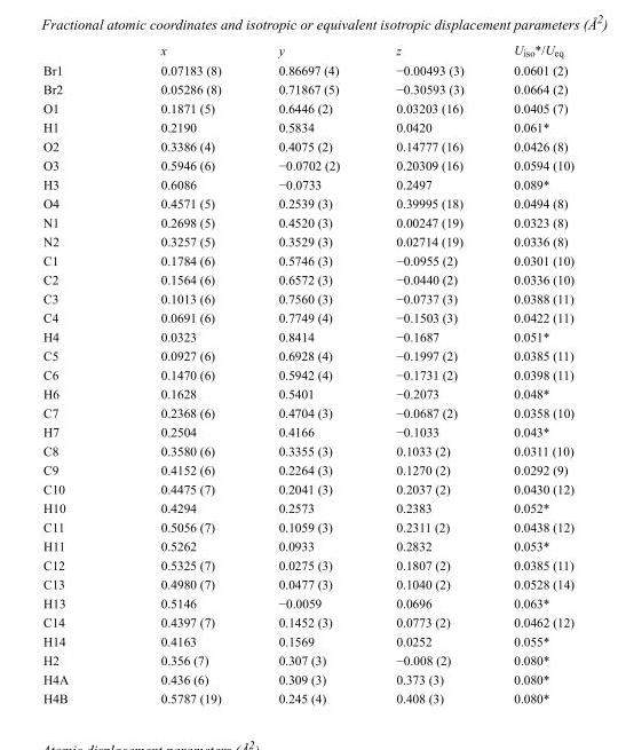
<table><thead><tr><td></td><td>x</td><td>y</td><td>z</td><td>U<sub>iso</sub>*/U<sub>eq</sub></td></tr></thead><tbody><tr><td>Br1</td><td>0.07183 (8)</td><td>0.86697 (4)</td><td>−0.00493 (3)</td><td>0.0601 (2)</td></tr><tr><td>Br2</td><td>0.05286 (8)</td><td>0.71867 (5)</td><td>−0.30593 (3)</td><td>0.0664 (2)</td></tr><tr><td>O1</td><td>0.1871 (5)</td><td>0.6446 (2)</td><td>0.03203 (16)</td><td>0.0405 (7)</td></tr><tr><td>H1</td><td>0.2190</td><td>0.5834</td><td>0.0420</td><td>0.061*</td></tr><tr><td>O2</td><td>0.3386 (4)</td><td>0.4075 (2)</td><td>0.14777 (16)</td><td>0.0426 (8)</td></tr><tr><td>O3</td><td>0.5946 (6)</td><td>−0.0702 (2)</td><td>0.20309 (16)</td><td>0.0594 (10)</td></tr><tr><td>H3</td><td>0.6086</td><td>−0.0733</td><td>0.2497</td><td>0.089*</td></tr><tr><td>O4</td><td>0.4571 (5)</td><td>0.2539 (3)</td><td>0.39995 (18)</td><td>0.0494 (8)</td></tr><tr><td>N1</td><td>0.2698 (5)</td><td>0.4520 (3)</td><td>0.00247 (19)</td><td>0.0323 (8)</td></tr><tr><td>N2</td><td>0.3257 (5)</td><td>0.3529 (3)</td><td>0.02714 (19)</td><td>0.0336 (8)</td></tr><tr><td>C1</td><td>0.1784 (6)</td><td>0.5746 (3)</td><td>−0.0955 (2)</td><td>0.0301 (10)</td></tr><tr><td>C2</td><td>0.1564 (6)</td><td>0.6572 (3)</td><td>−0.0440 (2)</td><td>0.0336 (10)</td></tr><tr><td>C3</td><td>0.1013 (6)</td><td>0.7560 (3)</td><td>−0.0737 (3)</td><td>0.0388 (11)</td></tr><tr><td>C4</td><td>0.0691 (6)</td><td>0.7749 (4)</td><td>−0.1503 (3)</td><td>0.0422 (11)</td></tr><tr><td>H4</td><td>0.0323</td><td>0.8414</td><td>−0.1687</td><td>0.051*</td></tr><tr><td>C5</td><td>0.0927 (6)</td><td>0.6928 (4)</td><td>−0.1997 (2)</td><td>0.0385 (11)</td></tr><tr><td>C6</td><td>0.1470 (6)</td><td>0.5942 (4)</td><td>−0.1731 (2)</td><td>0.0398 (11)</td></tr><tr><td>H6</td><td>0.1628</td><td>0.5401</td><td>−0.2073</td><td>0.048*</td></tr><tr><td>C7</td><td>0.2368 (6)</td><td>0.4704 (3)</td><td>−0.0687 (2)</td><td>0.0358 (10)</td></tr><tr><td>H7</td><td>0.2504</td><td>0.4166</td><td>−0.1033</td><td>0.043*</td></tr><tr><td>C8</td><td>0.3580 (6)</td><td>0.3355 (3)</td><td>0.1033 (2)</td><td>0.0311 (10)</td></tr><tr><td>C9</td><td>0.4152 (6)</td><td>0.2264 (3)</td><td>0.1270 (2)</td><td>0.0292 (9)</td></tr><tr><td>C10</td><td>0.4475 (7)</td><td>0.2041 (3)</td><td>0.2037 (2)</td><td>0.0430 (12)</td></tr><tr><td>H10</td><td>0.4294</td><td>0.2573</td><td>0.2383</td><td>0.052*</td></tr><tr><td>C11</td><td>0.5056 (7)</td><td>0.1059 (3)</td><td>0.2311 (2)</td><td>0.0438 (12)</td></tr><tr><td>H11</td><td>0.5262</td><td>0.0933</td><td>0.2832</td><td>0.053*</td></tr><tr><td>C12</td><td>0.5325 (7)</td><td>0.0275 (3)</td><td>0.1807 (2)</td><td>0.0385 (11)</td></tr><tr><td>C13</td><td>0.4980 (7)</td><td>0.0477 (3)</td><td>0.1040 (2)</td><td>0.0528 (14)</td></tr><tr><td>H13</td><td>0.5146</td><td>−0.0059</td><td>0.0696</td><td>0.063*</td></tr><tr><td>C14</td><td>0.4397 (7)</td><td>0.1452 (3)</td><td>0.0773 (2)</td><td>0.0462 (12)</td></tr><tr><td>H14</td><td>0.4163</td><td>0.1569</td><td>0.0252</td><td>0.055*</td></tr><tr><td>H2</td><td>0.356 (7)</td><td>0.307 (3)</td><td>−0.008 (2)</td><td>0.080*</td></tr><tr><td>H4A</td><td>0.436 (6)</td><td>0.309 (3)</td><td>0.373 (3)</td><td>0.080*</td></tr><tr><td>H4B</td><td>0.5787 (19)</td><td>0.245 (4)</td><td>0.408 (3)</td><td>0.080*</td></tr></tbody></table>